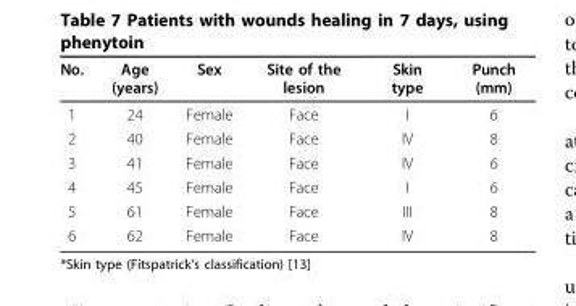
<table><thead><tr><td>No.</td><td>Age (years)</td><td>Sex</td><td>Site of the lesion</td><td>Skin type</td><td>Punch (mm)</td></tr></thead><tbody><tr><td>1</td><td>24</td><td>Female</td><td>Face</td><td>I</td><td>6</td></tr><tr><td>2</td><td>40</td><td>Female</td><td>Face</td><td>IV</td><td>8</td></tr><tr><td>3</td><td>41</td><td>Female</td><td>Face</td><td>IV</td><td>6</td></tr><tr><td>4</td><td>45</td><td>Female</td><td>Face</td><td>I</td><td>6</td></tr><tr><td>5</td><td>61</td><td>Female</td><td>Face</td><td>III</td><td>8</td></tr><tr><td>6</td><td>62</td><td>Female</td><td>Face</td><td>IV</td><td>8</td></tr></tbody></table>